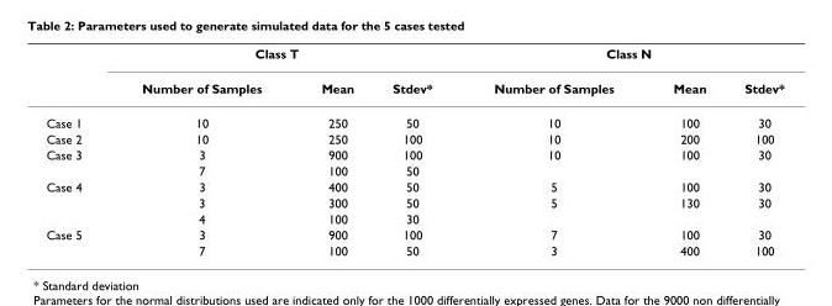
<table><thead><tr><td rowspan="2"></td><td colspan="3">Class T</td><td colspan="3">Class N</td></tr><tr><td>Number of Samples</td><td>Mean</td><td>Stdev*</td><td>Number of Samples</td><td>Mean</td><td>Stdev*</td></tr></thead><tbody><tr><td>Case 1</td><td>10</td><td>250</td><td>50</td><td>10</td><td>100</td><td>30</td></tr><tr><td>Case 2</td><td>10</td><td>250</td><td>100</td><td>10</td><td>200</td><td>100</td></tr><tr><td rowspan="2">Case 3</td><td>3</td><td>900</td><td>100</td><td>10</td><td>100</td><td>30</td></tr><tr><td>7</td><td>100</td><td>50</td><td></td><td></td><td></td></tr><tr><td rowspan="3">Case 4</td><td>3</td><td>400</td><td>50</td><td>5</td><td>100</td><td>30</td></tr><tr><td>3</td><td>300</td><td>50</td><td>5</td><td>130</td><td>30</td></tr><tr><td>4</td><td>100</td><td>30</td><td></td><td></td><td></td></tr><tr><td rowspan="2">Case 5</td><td>3</td><td>900</td><td>100</td><td>7</td><td>100</td><td>30</td></tr><tr><td>7</td><td>100</td><td>50</td><td>3</td><td>400</td><td>100</td></tr></tbody></table>